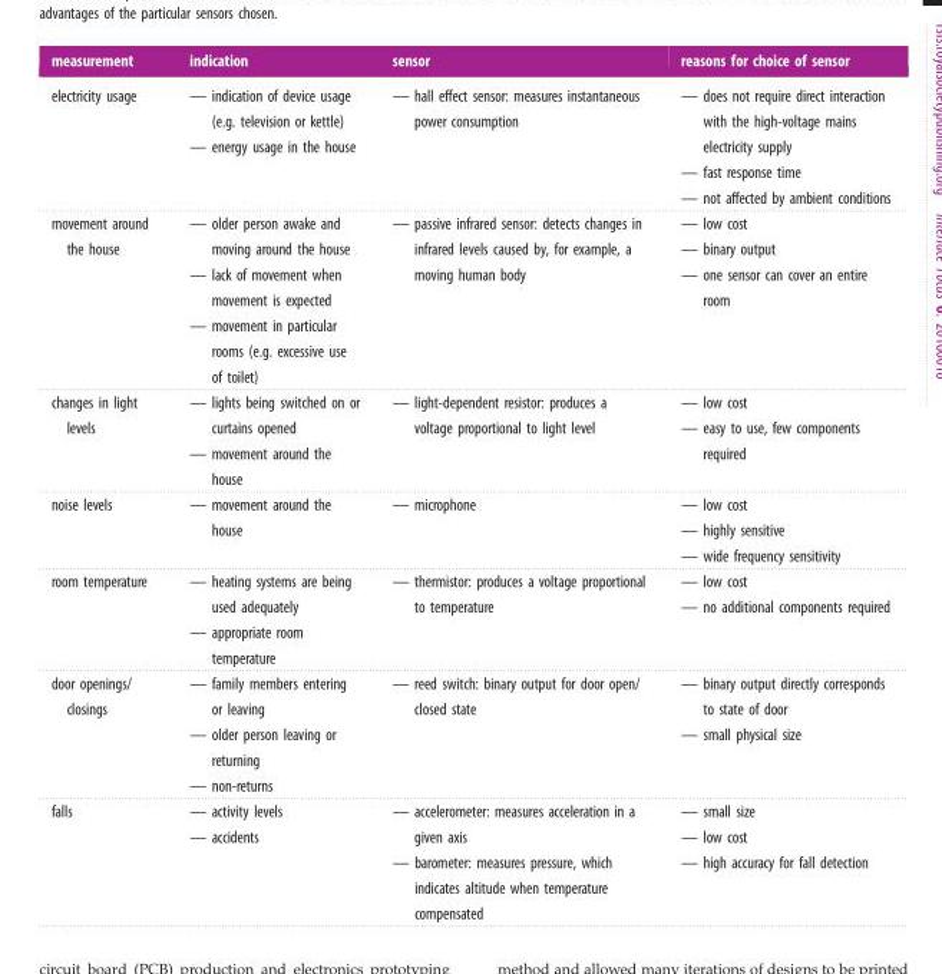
<table><thead><tr><td>measurement</td><td>indication</td><td>sensor</td><td>reasons for choice of sensor</td></tr></thead><tbody><tr><td>electricity usage</td><td>— indication of device usage (e.g. television or kettle) — energy usage in the house</td><td>— hall effect sensor: measures instantaneous power consumption</td><td>— does not require direct interaction with the high-voltage mains electricity supply — fast response time — not affected by ambient conditions</td></tr><tr><td>movement around the house</td><td>— older person awake and moving around the house — lack of movement when movement is expected — movement in particular rooms (e.g. excessive use of toilet)</td><td>— passive infrared sensor: detects changes in infrared levels caused by, for example, a moving human body</td><td>— low cost — binary output — one sensor can cover an entire room</td></tr><tr><td>changes in light levels</td><td>— lights being switched on or curtains opened — movement around the house</td><td>— light-dependent resistor: produces a voltage proportional to light level</td><td>— low cost — easy to use, few components required</td></tr><tr><td>noise levels</td><td>— movement around the house</td><td>— microphone</td><td>— low cost — highly sensitive — wide frequency sensitivity</td></tr><tr><td>room temperature</td><td>— heating systems are being used adequately — appropriate room temperature</td><td>— thermistor: produces a voltage proportional to temperature</td><td>— low cost — no additional components required</td></tr><tr><td>door openings/ closings</td><td>— family members entering or leaving — older person leaving or returning — non-returns</td><td>— reed switch: binary output for door open/ closed state</td><td>— binary output directly corresponds to state of door — small physical size</td></tr><tr><td>falls</td><td>— activity levels — accidents</td><td>— accelerometer: measures acceleration in a given axis — barometer: measures pressure, which indicates altitude when temperature compensated</td><td>— small size — low cost — high accuracy for fall detection</td></tr></tbody></table>